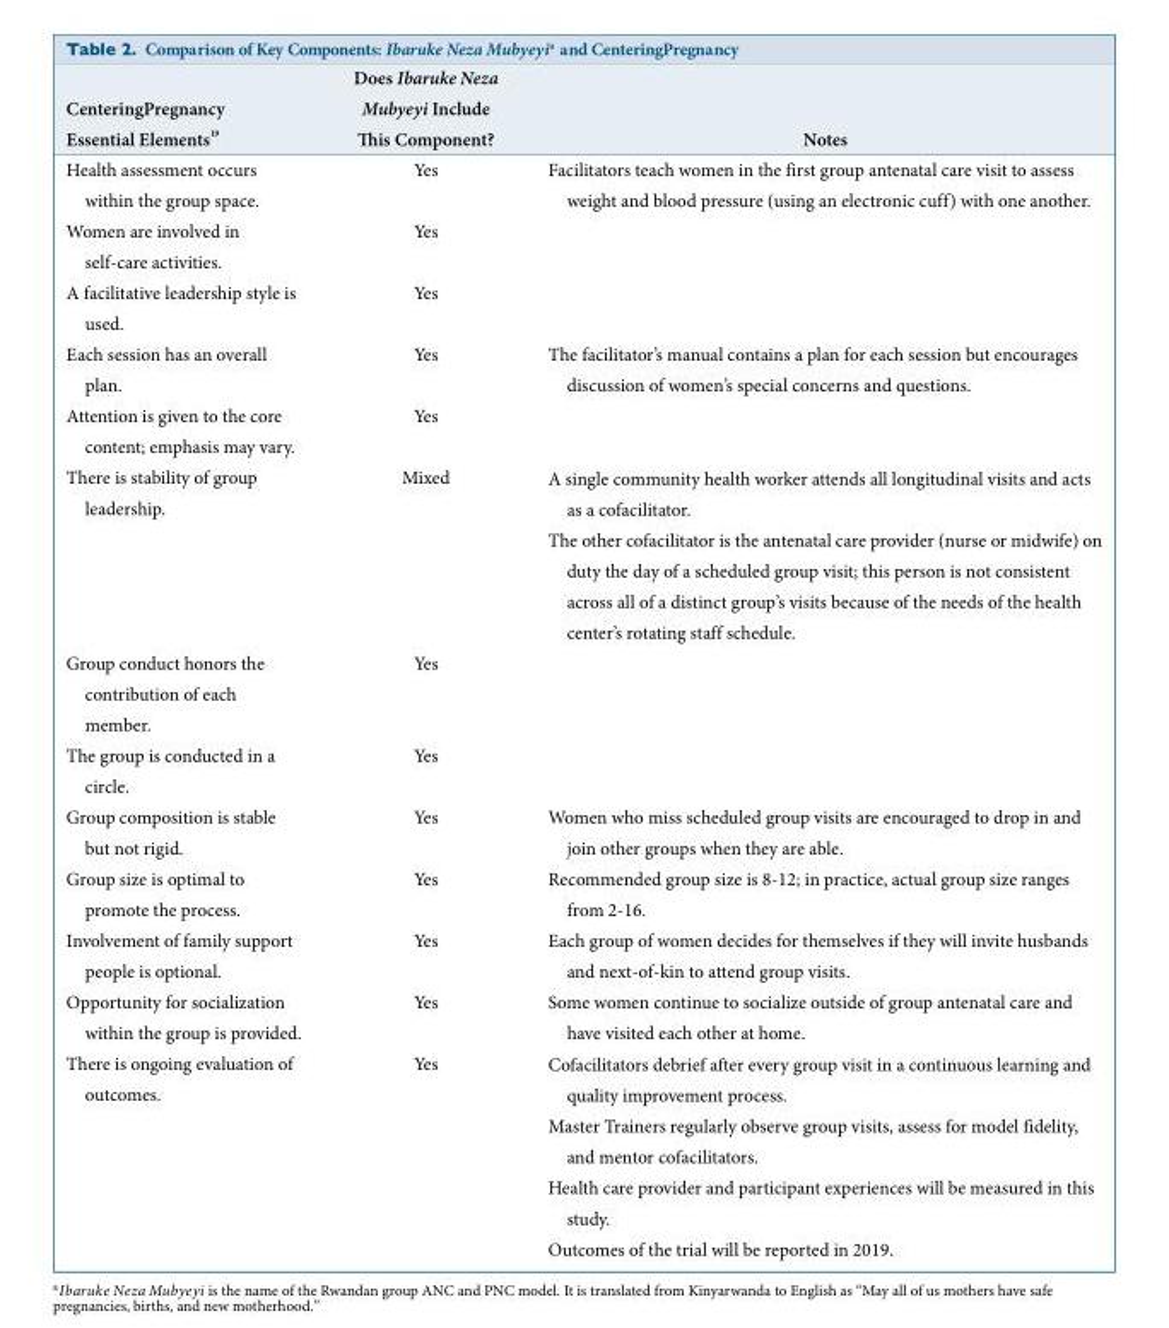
<table><thead><tr><td>CenteringPregnancy Essential Elements <sup>19</sup></td><td>Does Ibaruke Neza Mubyeyi Include This Component?</td><td>Notes</td></tr></thead><tbody><tr><td>Health assessment occurs within the group space.</td><td>Yes</td><td>Facilitators teach women in the first group antenatal care visit to assess weight and blood pressure (using an electronic cuff) with one another.</td></tr><tr><td>Women are involved in self-care activities.</td><td>Yes</td><td></td></tr><tr><td>A facilitative leadership style is used.</td><td>Yes</td><td></td></tr><tr><td>Each session has an overall plan.</td><td>Yes</td><td>The facilitator’s manual contains a plan for each session but encourages discussion of women’s special concerns and questions.</td></tr><tr><td>Attention is given to the core content; emphasis may vary.</td><td>Yes</td><td></td></tr><tr><td>There is stability of group leadership.</td><td>Mixed</td><td>A single community health worker attends all longitudinal visits and acts as a cofacilitator. The other cofacilitator is the antenatal care provider (nurse or midwife) on duty the day of a scheduled group visit; this person is not consistent across all of a distinct group’s visits because of the needs of the health center’s rotating staff schedule.</td></tr><tr><td>Group conduct honors the contribution of each member.</td><td>Yes</td><td></td></tr><tr><td>The group is conducted in a circle.</td><td>Yes</td><td></td></tr><tr><td>Group composition is stable but not rigid.</td><td>Yes</td><td>Women who miss scheduled group visits are encouraged to drop in and join other groups when they are able.</td></tr><tr><td>Group size is optimal to promote the process.</td><td>Yes</td><td>Recommended group size is 8-12; in practice, actual group size ranges from 2-16.</td></tr><tr><td>Involvement of family support people is optional.</td><td>Yes</td><td>Each group of women decides for themselves if they will invite husbands and next-of-kin to attend group visits.</td></tr><tr><td>Opportunity for socialization within the group is provided.</td><td>Yes</td><td>Some women continue to socialize outside of group antenatal care and have visited each other at home.</td></tr><tr><td>There is ongoing evaluation of outcomes.</td><td>Yes</td><td>Cofacilitators debrief after every group visit in a continuous learning and quality improvement process. Master Trainers regularly observe group visits, assess for model fidelity, and mentor cofacilitators. Health care provider and participant experiences will be measured in this study. Outcomes of the trial will be reported in 2019.</td></tr></tbody></table>